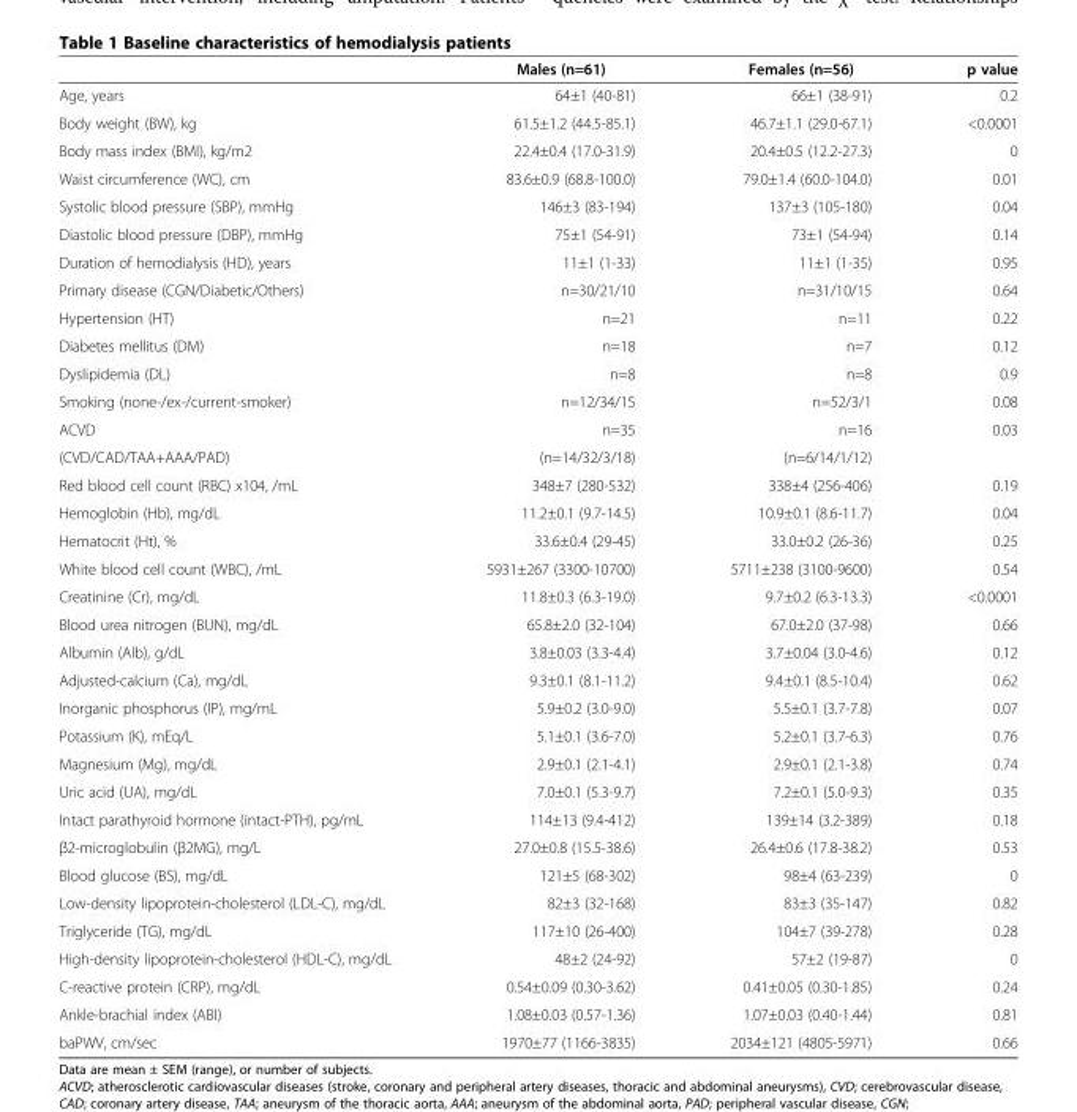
<table><thead><tr><td></td><td>Males (n=61)</td><td>Females (n=56)</td><td>p value</td></tr></thead><tbody><tr><td>Age, years</td><td>64±1 (40-81)</td><td>66±1 (38-91)</td><td>0.2</td></tr><tr><td>Body weight (BW), kg</td><td>61.5±1.2 (44.5-85.1)</td><td>46.7±1.1 (29.0-67.1)</td><td>&lt;0.0001</td></tr><tr><td>Body mass index (BMI), kg/m2</td><td>22.4±0.4 (17.0-31.9)</td><td>20.4±0.5 (12.2-27.3)</td><td>0</td></tr><tr><td>Waist circumference (WC), cm</td><td>83.6±0.9 (68.8-100.0)</td><td>79.0±1.4 (60.0-104.0)</td><td>0.01</td></tr><tr><td>Systolic blood pressure (SBP), mmHg</td><td>146±3 (83-194)</td><td>137±3 (105-180)</td><td>0.04</td></tr><tr><td>Diastolic blood pressure (DBP), mmHg</td><td>75±1 (54-91)</td><td>73±1 (54-94)</td><td>0.14</td></tr><tr><td>Duration of hemodialysis (HD), years</td><td>11±1 (1-33)</td><td>11±1 (1-35)</td><td>0.95</td></tr><tr><td>Primary disease (CGN/Diabetic/Others)</td><td>n=30/21/10</td><td>n=31/10/15</td><td>0.64</td></tr><tr><td>Hypertension (HT)</td><td>n=21</td><td>n=11</td><td>0.22</td></tr><tr><td>Diabetes mellitus (DM)</td><td>n=18</td><td>n=7</td><td>0.12</td></tr><tr><td>Dyslipidemia (DL)</td><td>n=8</td><td>n=8</td><td>0.9</td></tr><tr><td>Smoking (none-/ex-/current-smoker)</td><td>n=12/34/15</td><td>n=52/3/1</td><td>0.08</td></tr><tr><td>ACVD</td><td>n=35</td><td>n=16</td><td>0.03</td></tr><tr><td>(CVD/CAD/TAA+AAA/PAD)</td><td>(n=14/32/3/18)</td><td>(n=6/14/1/12)</td><td></td></tr><tr><td>Red blood cell count (RBC) x104, /mL</td><td>348±7 (280-532)</td><td>338±4 (256-406)</td><td>0.19</td></tr><tr><td>Hemoglobin (Hb), mg/dL</td><td>11.2±0.1 (9.7-14.5)</td><td>10.9±0.1 (8.6-11.7)</td><td>0.04</td></tr><tr><td>Hematocrit (Ht), %</td><td>33.6±0.4 (29-45)</td><td>33.0±0.2 (26-36)</td><td>0.25</td></tr><tr><td>White blood cell count (WBC), /mL</td><td>5931±267 (3300-10700)</td><td>5711±238 (3100-9600)</td><td>0.54</td></tr><tr><td>Creatinine (Cr), mg/dL</td><td>11.8±0.3 (6.3-19.0)</td><td>9.7±0.2 (6.3-13.3)</td><td>&lt;0.0001</td></tr><tr><td>Blood urea nitrogen (BUN), mg/dL</td><td>65.8±2.0 (32-104)</td><td>67.0±2.0 (37-98)</td><td>0.66</td></tr><tr><td>Albumin (Alb), g/dL</td><td>3.8±0.03 (3.3-4.4)</td><td>3.7±0.04 (3.0-4.6)</td><td>0.12</td></tr><tr><td>Adjusted-calcium (Ca), mg/dL</td><td>9.3±0.1 (8.1-11.2)</td><td>9.4±0.1 (8.5-10.4)</td><td>0.62</td></tr><tr><td>Inorganic phosphorus (IP), mg/mL</td><td>5.9±0.2 (3.0-9.0)</td><td>5.5±0.1 (3.7-7.8)</td><td>0.07</td></tr><tr><td>Potassium (K), mEq/L</td><td>5.1±0.1 (3.6-7.0)</td><td>5.2±0.1 (3.7-6.3)</td><td>0.76</td></tr><tr><td>Magnesium (Mg), mg/dL</td><td>2.9±0.1 (2.1-4.1)</td><td>2.9±0.1 (2.1-3.8)</td><td>0.74</td></tr><tr><td>Uric acid (UA), mg/dL</td><td>7.0±0.1 (5.3-9.7)</td><td>7.2±0.1 (5.0-9.3)</td><td>0.35</td></tr><tr><td>Intact parathyroid hormone (intact-PTH), pg/mL</td><td>114±13 (9.4-412)</td><td>139±14 (3.2-389)</td><td>0.18</td></tr><tr><td>β2-microglobulin (β2MG), mg/L</td><td>27.0±0.8 (15.5-38.6)</td><td>26.4±0.6 (17.8-38.2)</td><td>0.53</td></tr><tr><td>Blood glucose (BS), mg/dL</td><td>121±5 (68-302)</td><td>98±4 (63-239)</td><td>0</td></tr><tr><td>Low-density lipoprotein-cholesterol (LDL-C), mg/dL</td><td>82±3 (32-168)</td><td>83±3 (35-147)</td><td>0.82</td></tr><tr><td>Triglyceride (TG), mg/dL</td><td>117±10 (26-400)</td><td>104±7 (39-278)</td><td>0.28</td></tr><tr><td>High-density lipoprotein-cholesterol (HDL-C), mg/dL</td><td>48±2 (24-92)</td><td>57±2 (19-87)</td><td>0</td></tr><tr><td>C-reactive protein (CRP), mg/dL</td><td>0.54±0.09 (0.30-3.62)</td><td>0.41±0.05 (0.30-1.85)</td><td>0.24</td></tr><tr><td>Ankle-brachial index (ABI)</td><td>1.08±0.03 (0.57-1.36)</td><td>1.07±0.03 (0.40-1.44)</td><td>0.81</td></tr><tr><td>baPWV, cm/sec</td><td>1970±77 (1166-3835)</td><td>2034±121 (4805-5971)</td><td>0.66</td></tr></tbody></table>